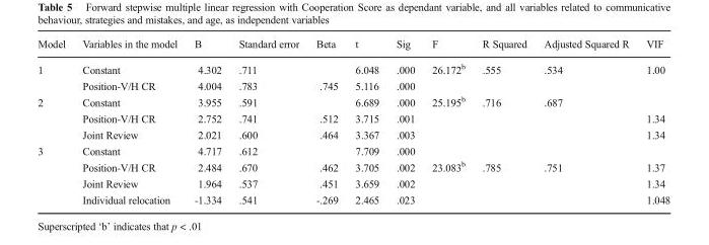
<table><thead><tr><td>Model</td><td>Variables in the model</td><td>B</td><td>Standard error</td><td>Beta</td><td>t</td><td>Sig</td><td>F</td><td>R Squared</td><td>Adjusted Squared R</td><td>VIF</td></tr></thead><tbody><tr><td rowspan="2">1</td><td>Constant</td><td>4.302</td><td>.711</td><td></td><td>6.048</td><td>.000</td><td>26.172<sup>b</sup></td><td>.555</td><td>.534</td><td>1.00</td></tr><tr><td>Position-V/H CR</td><td>4.004</td><td>.783</td><td>.745</td><td>5.116</td><td>.000</td><td colspan="3"></td><td></td></tr><tr><td rowspan="3">2</td><td>Constant</td><td>3.955</td><td>.591</td><td></td><td>6.689</td><td>.000</td><td rowspan="2">25.195<sup>b</sup></td><td rowspan="2">.716</td><td rowspan="2">.687</td><td></td></tr><tr><td>Position-V/H CR</td><td>2.752</td><td>.741</td><td>.512</td><td>3.715</td><td>.001</td><td>1.34</td></tr><tr><td>Joint Review</td><td>2.021</td><td>.600</td><td>.464</td><td>3.367</td><td>.003</td><td></td><td></td><td></td><td>1.34</td></tr><tr><td rowspan="4">3</td><td>Constant</td><td>4.717</td><td>.612</td><td></td><td>7.709</td><td>.000</td><td colspan="4"></td></tr><tr><td>Position-V/H CR</td><td>2.484</td><td>.670</td><td>.462</td><td>3.705</td><td>.002</td><td>23.083<sup>b</sup></td><td>.785</td><td>.751</td><td>1.37</td></tr><tr><td>Joint Review</td><td>1.964</td><td>.537</td><td>.451</td><td>3.659</td><td>.002</td><td colspan="3"></td><td>1.34</td></tr><tr><td>Individual relocation</td><td>-1.334</td><td>.541</td><td>-.269</td><td>2.465</td><td>.023</td><td colspan="3"></td><td>1.048</td></tr></tbody></table>